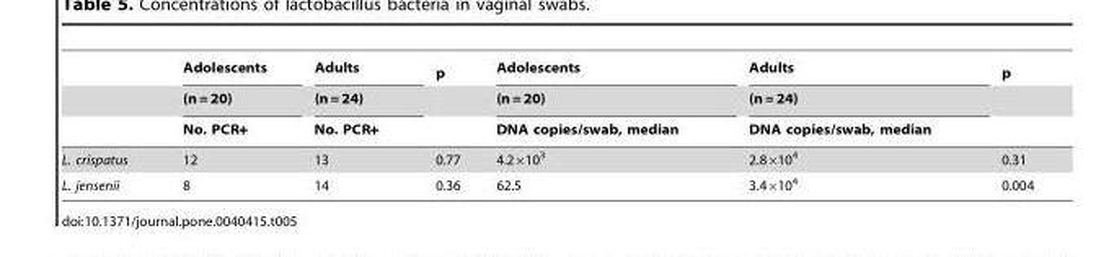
<table><thead><tr><td rowspan="3"></td><td rowspan="3">Adolescents (n = 20) No. PCR+</td><td rowspan="3">Adults (n = 24) No. PCR+</td><td rowspan="3">p</td><td rowspan="3">Adolescents (n = 20) DNA copies/swab, median</td><td rowspan="3">Adults (n = 24) DNA copies/swab, median</td><td rowspan="3">p</td></tr><tr></tr><tr></tr></thead><tbody><tr><td>L. crispatus</td><td>12</td><td>13</td><td>0.77</td><td>4.2×10<sup>3</sup></td><td>2.8×10<sup>4</sup></td><td>0.31</td></tr><tr><td>L. jensenii</td><td>8</td><td>14</td><td>0.36</td><td>62.5</td><td>3.4×10<sup>4</sup></td><td>0.004</td></tr></tbody></table>